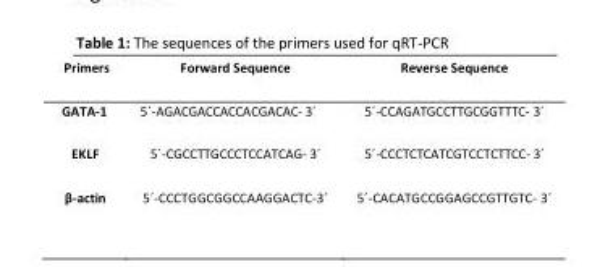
<table><thead><tr><td>Primers</td><td>Forward Sequence</td><td>Reverse Sequence</td></tr></thead><tbody><tr><td>GATA-1</td><td>5´-AGACGACCACCACGACAC- 3´</td><td>5´-CCAGATGCCTTGCGGTTTC- 3´</td></tr><tr><td>EKLF</td><td>5´-CGCCTTGCCCTCCATCAG- 3´</td><td>5´-CCCTCTCATCGTCCTCTTCC- 3´</td></tr><tr><td>β-actin</td><td>5´-CCCTGGCGGCCAAGGACTC-3´</td><td>5´-CACATGCCGGAGCCGTTGTC- 3´</td></tr></tbody></table>